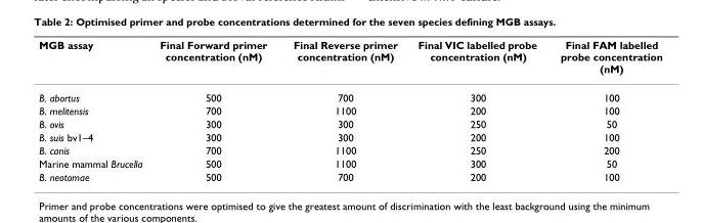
<table><thead><tr><td>MGB assay</td><td>Final Forward primer concentration (nM)</td><td>Final Reverse primer concentration (nM)</td><td>Final VIC labelled probe concentration (nM)</td><td>Final FAM labelled probe concentration (nM)</td></tr></thead><tbody><tr><td>B. abortus</td><td>500</td><td>700</td><td>300</td><td>100</td></tr><tr><td>B. melitensis</td><td>700</td><td>1100</td><td>200</td><td>100</td></tr><tr><td>B. ovis</td><td>300</td><td>300</td><td>250</td><td>50</td></tr><tr><td>B. suis bv1–4</td><td>300</td><td>300</td><td>200</td><td>100</td></tr><tr><td>B. canis</td><td>700</td><td>1100</td><td>250</td><td>200</td></tr><tr><td>Marine mammal Brucella</td><td>500</td><td>1100</td><td>300</td><td>50</td></tr><tr><td>B. neotomae</td><td>500</td><td>700</td><td>200</td><td>100</td></tr></tbody></table>